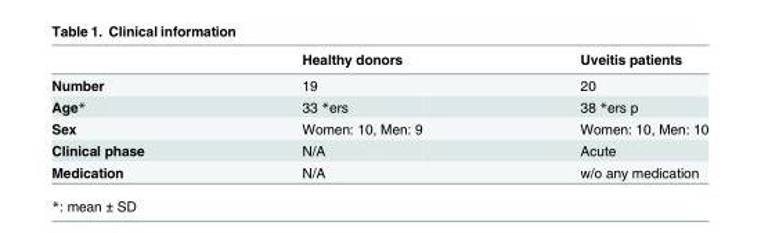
<table><thead><tr><td></td><td>Healthy donors</td><td>Uveitis patients</td></tr></thead><tbody><tr><td>Number</td><td>19</td><td>20</td></tr><tr><td>Age*</td><td>33 *ers</td><td>38 *ers p</td></tr><tr><td>Sex</td><td>Women: 10, Men: 9</td><td>Women: 10, Men: 10</td></tr><tr><td>Clinical phase</td><td>N/A</td><td>Acute</td></tr><tr><td>Medication</td><td>N/A</td><td>w/o any medication</td></tr></tbody></table>